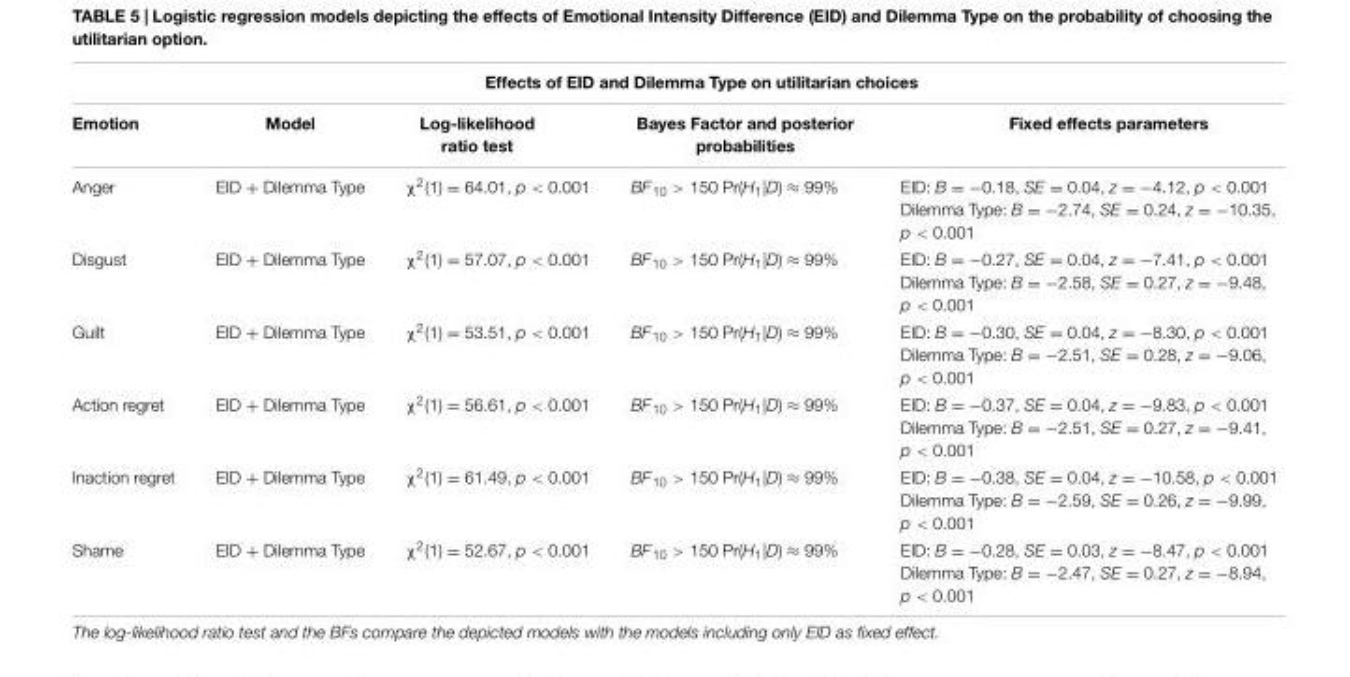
<table><thead><tr><td colspan="5">Effects of EID and Dilemma Type on utilitarian choices</td></tr><tr><td>Emotion</td><td>Model</td><td>Log-likelihood ratio test</td><td>Bayes Factor and posterior probabilities</td><td>Fixed effects parameters</td></tr></thead><tbody><tr><td>Anger</td><td>EID + Dilemma Type</td><td>χ<sup>2</sup>(1) = 64.01, p &lt; 0.001</td><td>BF<sub>10</sub> &gt; 150 Pr(H<sub>1</sub>|D) ≈ 99%</td><td>EID: B = −0.18, SE = 0.04, z = −4.12, p &lt; 0.001 Dilemma Type: B = −2.74, SE = 0.24, z = −10.35, p &lt; 0.001</td></tr><tr><td>Disgust</td><td>EID + Dilemma Type</td><td>χ<sup>2</sup>(1) = 57.07, p &lt; 0.001</td><td>BF<sub>10</sub> &gt; 150 Pr(H<sub>1</sub>|D) ≈ 99%</td><td>EID: B = −0.27, SE = 0.04, z = −7.41, p &lt; 0.001 Dilemma Type: B = −2.58, SE = 0.27, z = −9.48, p &lt; 0.001</td></tr><tr><td>Guilt</td><td>EID + Dilemma Type</td><td>χ<sup>2</sup>(1) = 53.51, p &lt; 0.001</td><td>BF<sub>10</sub> &gt; 150 Pr(H<sub>1</sub>|D) ≈ 99%</td><td>EID: B = −0.30, SE = 0.04, z = −8.30, p &lt; 0.001 Dilemma Type: B = −2.51, SE = 0.28, z = −9.06, p &lt; 0.001</td></tr><tr><td>Action regret</td><td>EID + Dilemma Type</td><td>χ<sup>2</sup>(1) = 56.61, p &lt; 0.001</td><td>BF<sub>10</sub> &gt; 150 Pr(H<sub>1</sub>|D) ≈ 99%</td><td>EID: B = −0.37, SE = 0.04, z = −9.83, p &lt; 0.001 Dilemma Type: B = −2.51, SE = 0.27, z = −9.41, p &lt; 0.001</td></tr><tr><td>Inaction regret</td><td>EID + Dilemma Type</td><td>χ<sup>2</sup>(1) = 61.49, p &lt; 0.001</td><td>BF<sub>10</sub> &gt; 150 Pr(H<sub>1</sub>|D) ≈ 99%</td><td>EID: B = −0.38, SE = 0.04, z = −10.58, p &lt; 0.001 Dilemma Type: B = −2.59, SE = 0.26, z = −9.99, p &lt; 0.001</td></tr><tr><td>Shame</td><td>EID + Dilemma Type</td><td>χ<sup>2</sup>(1) = 52.67, p &lt; 0.001</td><td>BF<sub>10</sub> &gt; 150 Pr(H<sub>1</sub>|D) ≈ 99%</td><td>EID: B = −0.28, SE = 0.03, z = −8.47, p &lt; 0.001 Dilemma Type: B = −2.47, SE = 0.27, z = −8.94, p &lt; 0.001</td></tr></tbody></table>